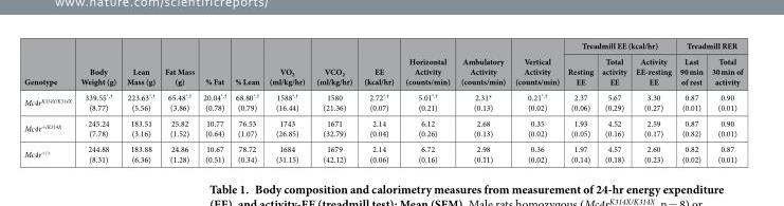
<table><thead><tr><td rowspan="2">Genotype</td><td rowspan="2">Body Weight (g)</td><td rowspan="2">Lean Mass (g)</td><td rowspan="2">Fat Mass (g)</td><td rowspan="2">% Fat</td><td rowspan="2">% Lean</td><td rowspan="2">VO<sub>2</sub> (ml/kg/hr)</td><td rowspan="2">VCO<sub>2</sub> (ml/kg/hr)</td><td rowspan="2">EE (kcal/hr)</td><td rowspan="2">Horizontal Activity (counts/min)</td><td rowspan="2">Ambulatory Activity (counts/min)</td><td rowspan="2">Vertical Activity (counts/min)</td><td colspan="3">Treadmill EE (kcal/hr)</td><td colspan="2">Treadmill RER</td></tr><tr><td>Resting EE</td><td>Total activity EE</td><td>Activity EE-resting EE</td><td>Last 90 min of rest</td><td>Total 30 min of activity</td></tr></thead><tbody><tr><td>Mc4r<sup>K314X/K314X</sup></td><td>339.55<sup>*,†</sup> (8.77)</td><td>223.63<sup>*,†</sup> (5.56)</td><td>65.48<sup>*,†</sup> (3.86)</td><td>20.04<sup>*,†</sup> (0.78)</td><td>68.80<sup>*,†</sup> (0.79)</td><td>1588<sup>*,†</sup> (16.44)</td><td>1580 (21.36)</td><td>2.72<sup>*,†</sup> (0.07)</td><td>5.01<sup>*,†</sup> (0.21)</td><td>2.31* (0.13)</td><td>0.21<sup>*,†</sup> (0.02)</td><td>2.37 (0.06)</td><td>5.67 (0.29)</td><td>3.30 (0.27)</td><td>0.87 (0.01)</td><td>0.90 (0.01)</td></tr><tr><td>Mc4r<sup>+/K314X</sup></td><td>245.24 (7.78)</td><td>183.51 (3.16)</td><td>25.82 (1.52)</td><td>10.77 (0.64)</td><td>76.53 (1.07)</td><td>1743 (26.85)</td><td>1671 (32.79)</td><td>2.14 (0.04)</td><td>6.12 (0.26)</td><td>2.68 (0.13)</td><td>0.35 (0.02)</td><td>1.93 (0.05)</td><td>4.52 (0.16)</td><td>2.59 (0.17)</td><td>0.87 (0.82)</td><td>0.90 (0.01)</td></tr><tr><td>Mc4r<sup>+/+</sup></td><td>244.88 (8.31)</td><td>183.88 (6.36)</td><td>24.86 (1.28)</td><td>10.67 (0.51)</td><td>78.72 (0.34)</td><td>1684 (31.15)</td><td>1679 (42.12)</td><td>2.14 (0.06)</td><td>6.72 (0.16)</td><td>2.98 (0.11)</td><td>0.36 (0.02)</td><td>1.97 (0.14)</td><td>4.57 (0.18)</td><td>2.60 (0.23)</td><td>0.82 (0.02)</td><td>0.87 (0.01)</td></tr></tbody></table>